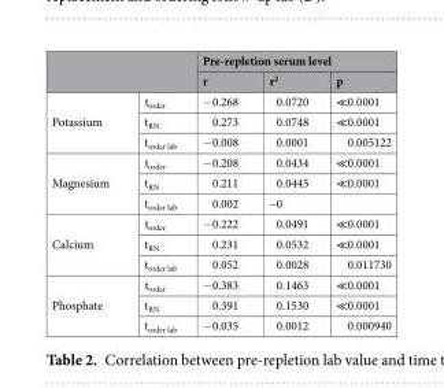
<table><thead><tr><td rowspan="2"></td><td rowspan="2"></td><td colspan="3">Pre-repletion serum level</td></tr><tr><td>r</td><td>r<sup>2</sup></td><td>p</td></tr></thead><tbody><tr><td rowspan="3">Potassium</td><td>t<sub>order</sub></td><td>−0.268</td><td>0.0720</td><td>≪0.0001</td></tr><tr><td>t<sub>RN</sub></td><td>0.273</td><td>0.0748</td><td>≪0.0001</td></tr><tr><td>t<sub>order lab</sub></td><td>−0.008</td><td>0.0001</td><td>0.005122</td></tr><tr><td rowspan="3">Magnesium</td><td>t<sub>order</sub></td><td>−0.208</td><td>0.0434</td><td>≪0.0001</td></tr><tr><td>t<sub>RN</sub></td><td>0.211</td><td>0.0445</td><td>≪0.0001</td></tr><tr><td>t<sub>order lab</sub></td><td>0.002</td><td>~0</td><td></td></tr><tr><td rowspan="3">Calcium</td><td>t<sub>order</sub></td><td>−0.222</td><td>0.0491</td><td>≪0.0001</td></tr><tr><td>t<sub>RN</sub></td><td>0.231</td><td>0.0532</td><td>≪0.0001</td></tr><tr><td>t<sub>order lab</sub></td><td>0.052</td><td>0.0028</td><td>0.011730</td></tr><tr><td rowspan="3">Phosphate</td><td>t<sub>order</sub></td><td>−0.383</td><td>0.1463</td><td>≪0.0001</td></tr><tr><td>t<sub>RN</sub></td><td>0.391</td><td>0.1530</td><td>≪0.0001</td></tr><tr><td>t<sub>order lab</sub></td><td>−0.035</td><td>0.0012</td><td>0.000940</td></tr></tbody></table>